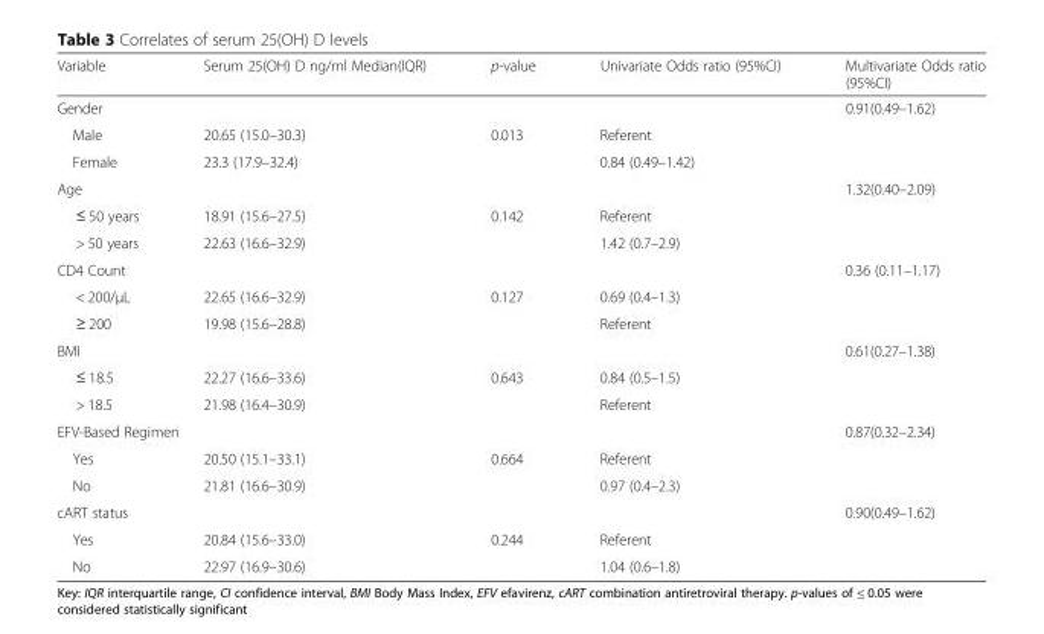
<table><thead><tr><td>Variable</td><td>Serum 25(OH) D ng/ml Median(IQR)</td><td>p-value</td><td>Univariate Odds ratio (95%CI)</td><td>Multivariate Odds ratio (95%CI)</td></tr></thead><tbody><tr><td colspan="4">Gender</td><td>0.91(0.49–1.62)</td></tr><tr><td>Male</td><td>20.65 (15.0–30.3)</td><td rowspan="2">0.013</td><td>Referent</td><td></td></tr><tr><td>Female</td><td>23.3 (17.9–32.4)</td><td>0.84 (0.49–1.42)</td><td></td></tr><tr><td colspan="4">Age</td><td>1.32(0.40–2.09)</td></tr><tr><td>≤ 50 years</td><td>18.91 (15.6–27.5)</td><td rowspan="2">0.142</td><td>Referent</td><td></td></tr><tr><td>&gt; 50 years</td><td>22.63 (16.6–32.9)</td><td>1.42 (0.7–2.9)</td><td></td></tr><tr><td colspan="4">CD4 Count</td><td>0.36 (0.11–1.17)</td></tr><tr><td>&lt; 200/μL</td><td>22.65 (16.6–32.9)</td><td rowspan="2">0.127</td><td>0.69 (0.4–1.3)</td><td></td></tr><tr><td>≥ 200</td><td>19.98 (15.6–28.8)</td><td>Referent</td><td></td></tr><tr><td colspan="4">BMI</td><td>0.61(0.27–1.38)</td></tr><tr><td>≤ 18.5</td><td>22.27 (16.6–33.6)</td><td rowspan="2">0.643</td><td>0.84 (0.5–1.5)</td><td></td></tr><tr><td>&gt; 18.5</td><td>21.98 (16.4–30.9)</td><td>Referent</td><td></td></tr><tr><td colspan="4">EFV-Based Regimen</td><td>0.87(0.32–2.34)</td></tr><tr><td>Yes</td><td>20.50 (15.1–33.1)</td><td rowspan="2">0.664</td><td>Referent</td><td></td></tr><tr><td>No</td><td>21.81 (16.6–30.9)</td><td>0.97 (0.4–2.3)</td><td></td></tr><tr><td colspan="4">cART status</td><td>0.90(0.49–1.62)</td></tr><tr><td>Yes</td><td>20.84 (15.6–33.0)</td><td rowspan="2">0.244</td><td>Referent</td><td></td></tr><tr><td>No</td><td>22.97 (16.9–30.6)</td><td>1.04 (0.6–1.8)</td><td></td></tr></tbody></table>